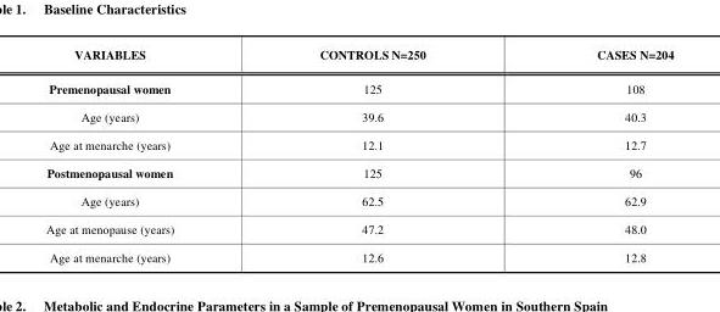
<table><thead><tr><td>VARIABLES</td><td>CONTROLS N=250</td><td>CASES N=204</td></tr></thead><tbody><tr><td>Premenopausal women</td><td>125</td><td>108</td></tr><tr><td>Age (years)</td><td>39.6</td><td>40.3</td></tr><tr><td>Age at menarche (years)</td><td>12.1</td><td>12.7</td></tr><tr><td>Postmenopausal women</td><td>125</td><td>96</td></tr><tr><td>Age (years)</td><td>62.5</td><td>62.9</td></tr><tr><td>Age at menopause (years)</td><td>47.2</td><td>48.0</td></tr><tr><td>Age at menarche (years)</td><td>12.6</td><td>12.8</td></tr></tbody></table>